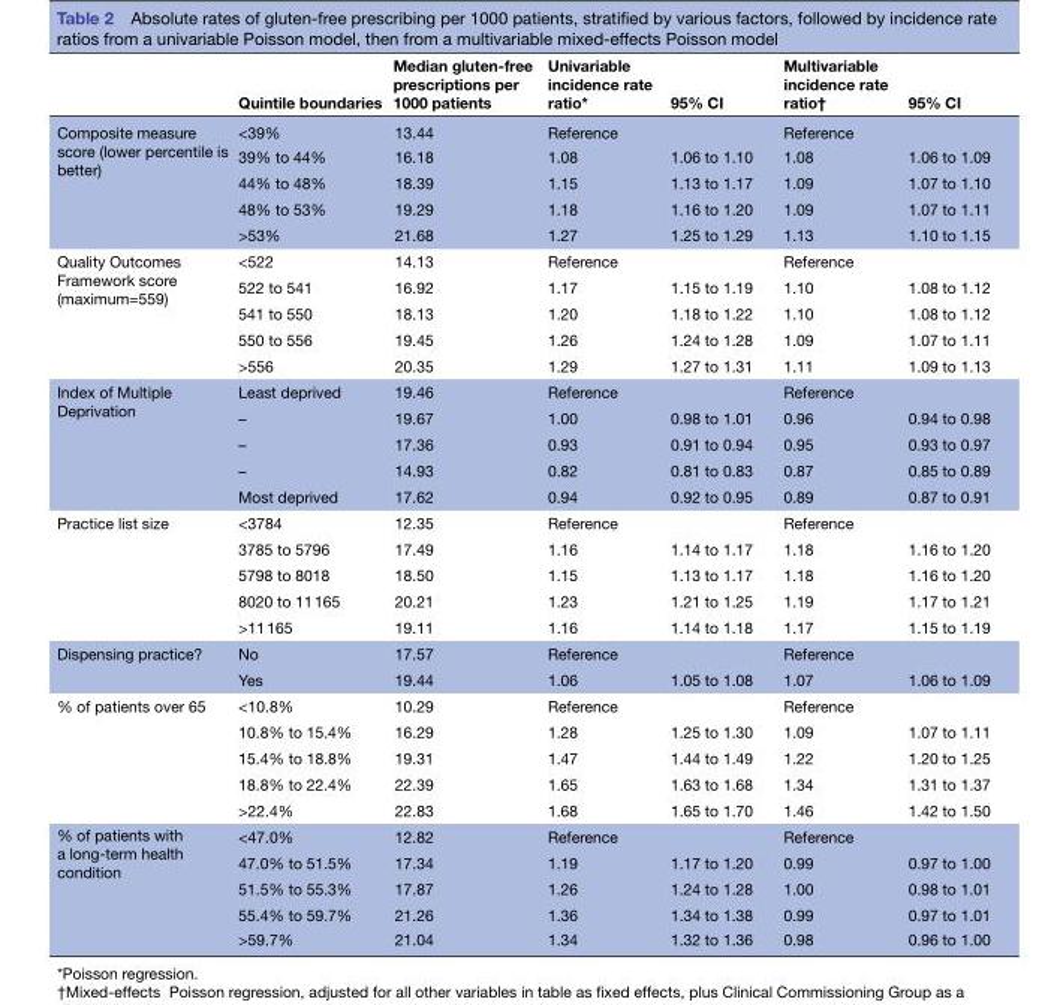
<table><thead><tr><td></td><td>Quintile boundaries</td><td>Median gluten-free prescriptions per 1000 patients</td><td>Univariable incidence rate ratio*</td><td>95% CI</td><td>Multivariable incidence rate ratio†</td><td>95% CI</td></tr></thead><tbody><tr><td rowspan="5">Composite measure score (lower percentile is better)</td><td>&lt;39%</td><td>13.44</td><td>Reference</td><td></td><td>Reference</td><td></td></tr><tr><td>39% to 44%</td><td>16.18</td><td>1.08</td><td>1.06 to 1.10</td><td>1.08</td><td>1.06 to 1.09</td></tr><tr><td>44% to 48%</td><td>18.39</td><td>1.15</td><td>1.13 to 1.17</td><td>1.09</td><td>1.07 to 1.10</td></tr><tr><td>48% to 53%</td><td>19.29</td><td>1.18</td><td>1.16 to 1.20</td><td>1.09</td><td>1.07 to 1.11</td></tr><tr><td>&gt;53%</td><td>21.68</td><td>1.27</td><td>1.25 to 1.29</td><td>1.13</td><td>1.10 to 1.15</td></tr><tr><td rowspan="5">Quality Outcomes Framework score (maximum=559)</td><td>&lt;522</td><td>14.13</td><td>Reference</td><td></td><td>Reference</td><td></td></tr><tr><td>522 to 541</td><td>16.92</td><td>1.17</td><td>1.15 to 1.19</td><td>1.10</td><td>1.08 to 1.12</td></tr><tr><td>541 to 550</td><td>18.13</td><td>1.20</td><td>1.18 to 1.22</td><td>1.10</td><td>1.08 to 1.12</td></tr><tr><td>550 to 556</td><td>19.45</td><td>1.26</td><td>1.24 to 1.28</td><td>1.09</td><td>1.07 to 1.11</td></tr><tr><td>&gt;556</td><td>20.35</td><td>1.29</td><td>1.27 to 1.31</td><td>1.11</td><td>1.09 to 1.13</td></tr><tr><td rowspan="5">Index of Multiple Deprivation</td><td>Least deprived</td><td>19.46</td><td>Reference</td><td></td><td>Reference</td><td></td></tr><tr><td>–</td><td>19.67</td><td>1.00</td><td>0.98 to 1.01</td><td>0.96</td><td>0.94 to 0.98</td></tr><tr><td>–</td><td>17.36</td><td>0.93</td><td>0.91 to 0.94</td><td>0.95</td><td>0.93 to 0.97</td></tr><tr><td>–</td><td>14.93</td><td>0.82</td><td>0.81 to 0.83</td><td>0.87</td><td>0.85 to 0.89</td></tr><tr><td>Most deprived</td><td>17.62</td><td>0.94</td><td>0.92 to 0.95</td><td>0.89</td><td>0.87 to 0.91</td></tr><tr><td rowspan="5">Practice list size</td><td>&lt;3784</td><td>12.35</td><td>Reference</td><td></td><td>Reference</td><td></td></tr><tr><td>3785 to 5796</td><td>17.49</td><td>1.16</td><td>1.14 to 1.17</td><td>1.18</td><td>1.16 to 1.20</td></tr><tr><td>5798 to 8018</td><td>18.50</td><td>1.15</td><td>1.13 to 1.17</td><td>1.18</td><td>1.16 to 1.20</td></tr><tr><td>8020 to 11 165</td><td>20.21</td><td>1.23</td><td>1.21 to 1.25</td><td>1.19</td><td>1.17 to 1.21</td></tr><tr><td>&gt;11 165</td><td>19.11</td><td>1.16</td><td>1.14 to 1.18</td><td>1.17</td><td>1.15 to 1.19</td></tr><tr><td rowspan="2">Dispensing practice?</td><td>No</td><td>17.57</td><td>Reference</td><td></td><td>Reference</td><td></td></tr><tr><td>Yes</td><td>19.44</td><td>1.06</td><td>1.05 to 1.08</td><td>1.07</td><td>1.06 to 1.09</td></tr><tr><td rowspan="5">% of patients over 65</td><td>&lt;10.8%</td><td>10.29</td><td>Reference</td><td></td><td>Reference</td><td></td></tr><tr><td>10.8% to 15.4%</td><td>16.29</td><td>1.28</td><td>1.25 to 1.30</td><td>1.09</td><td>1.07 to 1.11</td></tr><tr><td>15.4% to 18.8%</td><td>19.31</td><td>1.47</td><td>1.44 to 1.49</td><td>1.22</td><td>1.20 to 1.25</td></tr><tr><td>18.8% to 22.4%</td><td>22.39</td><td>1.65</td><td>1.63 to 1.68</td><td>1.34</td><td>1.31 to 1.37</td></tr><tr><td>&gt;22.4%</td><td>22.83</td><td>1.68</td><td>1.65 to 1.70</td><td>1.46</td><td>1.42 to 1.50</td></tr><tr><td rowspan="5">% of patients with a long-term health condition</td><td>&lt;47.0%</td><td>12.82</td><td>Reference</td><td></td><td>Reference</td><td></td></tr><tr><td>47.0% to 51.5%</td><td>17.34</td><td>1.19</td><td>1.17 to 1.20</td><td>0.99</td><td>0.97 to 1.00</td></tr><tr><td>51.5% to 55.3%</td><td>17.87</td><td>1.26</td><td>1.24 to 1.28</td><td>1.00</td><td>0.98 to 1.01</td></tr><tr><td>55.4% to 59.7%</td><td>21.26</td><td>1.36</td><td>1.34 to 1.38</td><td>0.99</td><td>0.97 to 1.01</td></tr><tr><td>&gt;59.7%</td><td>21.04</td><td>1.34</td><td>1.32 to 1.36</td><td>0.98</td><td>0.96 to 1.00</td></tr></tbody></table>